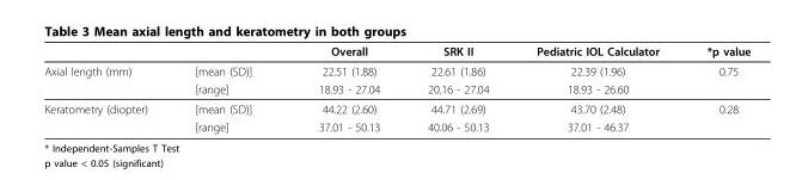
<table><thead><tr><td></td><td></td><td>Overall</td><td>SRK II</td><td>Pediatric IOL Calculator</td><td>*p value</td></tr></thead><tbody><tr><td rowspan="2">Axial length (mm)</td><td>[mean (SD)]</td><td>22.51 (1.88)</td><td>22.61 (1.86)</td><td>22.39 (1.96)</td><td>0.75</td></tr><tr><td>[range]</td><td>18.93 - 27.04</td><td>20.16 - 27.04</td><td>18.93 - 26.60</td><td></td></tr><tr><td rowspan="2">Keratometry (diopter)</td><td>[mean (SD)]</td><td>44.22 (2.60)</td><td>44.71 (2.69)</td><td>43.70 (2.48)</td><td>0.28</td></tr><tr><td>[range]</td><td>37.01 - 50.13</td><td>40.06 - 50.13</td><td>37.01 - 46.37</td><td></td></tr></tbody></table>